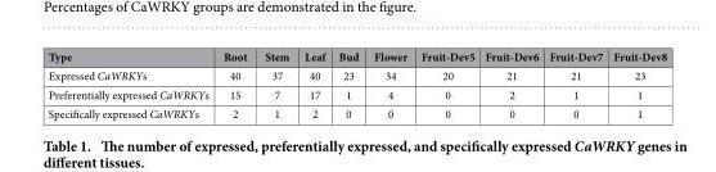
<table><thead><tr><td>Type</td><td>Root</td><td>Stem</td><td>Leaf</td><td>Bud</td><td>Flower</td><td>Fruit-Dev5</td><td>Fruit-Dev6</td><td>Fruit-Dev7</td><td>Fruit-Dev8</td></tr></thead><tbody><tr><td>Expressed CaWRKYs</td><td>40</td><td>37</td><td>40</td><td>23</td><td>34</td><td>20</td><td>21</td><td>21</td><td>23</td></tr><tr><td>Preferentially expressed CaWRKYs</td><td>15</td><td>7</td><td>17</td><td>1</td><td>4</td><td>0</td><td>2</td><td>1</td><td>1</td></tr><tr><td>Specifically expressed CaWRKYs</td><td>2</td><td>1</td><td>2</td><td>0</td><td>0</td><td>0</td><td>0</td><td>0</td><td>1</td></tr></tbody></table>